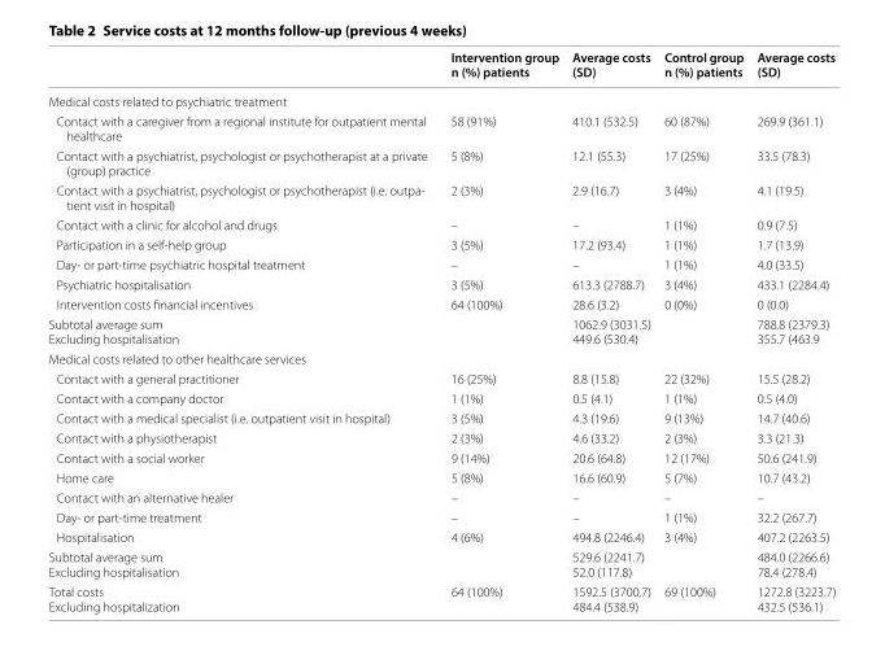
<table><thead><tr><td></td><td>Intervention group n (%) patients</td><td>Average costs (SD)</td><td>Control group n (%) patients</td><td>Average costs (SD)</td></tr></thead><tbody><tr><td colspan="5">Medical costs related to psychiatric treatment</td></tr><tr><td>Contact with a caregiver from a regional institute for outpatient mental healthcare</td><td>58 (91%)</td><td>410.1 (532.5)</td><td>60 (87%)</td><td>269.9 (361.1)</td></tr><tr><td>Contact with a psychiatrist, psychologist or psychotherapist at a private (group) practice</td><td>5 (8%)</td><td>12.1 (55.3)</td><td>17 (25%)</td><td>33.5 (78.3)</td></tr><tr><td>Contact with a psychiatrist, psychologist or psychotherapist (i.e. outpa- tient visit in hospital)</td><td>2 (3%)</td><td>2.9 (16.7)</td><td>3 (4%)</td><td>4.1 (19.5)</td></tr><tr><td>Contact with a clinic for alcohol and drugs</td><td>–</td><td>–</td><td>1 (1%)</td><td>0.9 (7.5)</td></tr><tr><td>Participation in a self-help group</td><td>3 (5%)</td><td>17.2 (93.4)</td><td>1 (1%)</td><td>1.7 (13.9)</td></tr><tr><td>Day- or part-time psychiatric hospital treatment</td><td>–</td><td>–</td><td>1 (1%)</td><td>4.0 (33.5)</td></tr><tr><td>Psychiatric hospitalisation</td><td>3 (5%)</td><td>613.3 (2788.7)</td><td>3 (4%)</td><td>433.1 (2284.4)</td></tr><tr><td>Intervention costs financial incentives</td><td>64 (100%)</td><td>28.6 (3.2)</td><td>0 (0%)</td><td>0 (0.0)</td></tr><tr><td>Subtotal average sum Excluding hospitalisation</td><td></td><td>1062.9 (3031.5) 449.6 (530.4)</td><td></td><td>788.8 (2379.3) 355.7 (463.9</td></tr><tr><td colspan="5">Medical costs related to other healthcare services</td></tr><tr><td>Contact with a general practitioner</td><td>16 (25%)</td><td>8.8 (15.8)</td><td>22 (32%)</td><td>15.5 (28.2)</td></tr><tr><td>Contact with a company doctor</td><td>1 (1%)</td><td>0.5 (4.1)</td><td>1 (1%)</td><td>0.5 (4.0)</td></tr><tr><td>Contact with a medical specialist (i.e. outpatient visit in hospital)</td><td>3 (5%)</td><td>4.3 (19.6)</td><td>9 (13%)</td><td>14.7 (40.6)</td></tr><tr><td>Contact with a physiotherapist</td><td>2 (3%)</td><td>4.6 (33.2)</td><td>2 (3%)</td><td>3.3 (21.3)</td></tr><tr><td>Contact with a social worker</td><td>9 (14%)</td><td>20.6 (64.8)</td><td>12 (17%)</td><td>50.6 (241.9)</td></tr><tr><td>Home care</td><td>5 (8%)</td><td>16.6 (60.9)</td><td>5 (7%)</td><td>10.7 (43.2)</td></tr><tr><td>Contact with an alternative healer</td><td>–</td><td>–</td><td>–</td><td>–</td></tr><tr><td>Day- or part-time treatment</td><td>–</td><td>–</td><td>1 (1%)</td><td>32.2 (267.7)</td></tr><tr><td>Hospitalisation</td><td>4 (6%)</td><td>494.8 (2246.4)</td><td>3 (4%)</td><td>407.2 (2263.5)</td></tr><tr><td>Subtotal average sum Excluding hospitalisation</td><td></td><td>529.6 (2241.7) 52.0 (117.8)</td><td></td><td>484.0 (2266.6) 78.4 (278.4)</td></tr><tr><td>Total costs Excluding hospitalization</td><td>64 (100%)</td><td>1592.5 (3700.7) 484.4 (538.9)</td><td>69 (100%)</td><td>1272.8 (3223.7) 432.5 (536.1)</td></tr></tbody></table>